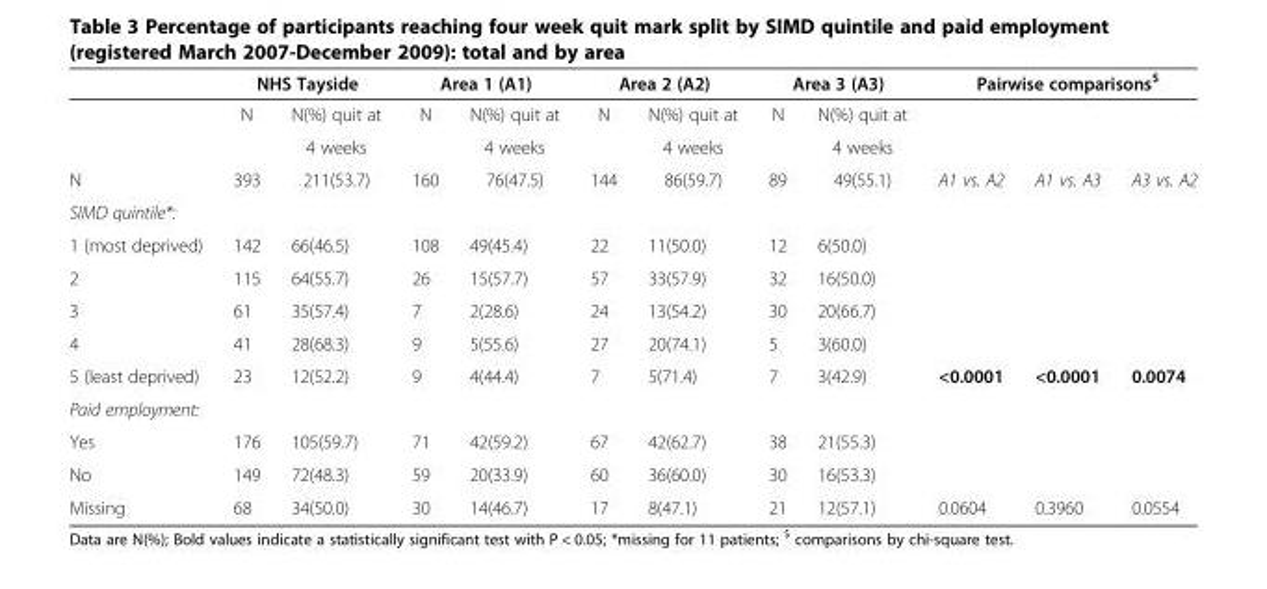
<table><thead><tr><td rowspan="4">N</td><td colspan="2">NHS Tayside</td><td colspan="2">Area 1 (A1)</td><td colspan="2">Area 2 (A2)</td><td colspan="2">Area 3 (A3)</td><td rowspan="3" colspan="3">Pairwise comparisons<sup>$</sup></td></tr><tr><td rowspan="3">N 393</td><td rowspan="3">N(%) quit at 4 weeks 211(53.7)</td><td rowspan="3">N 160</td><td rowspan="3">N(%) quit at 4 weeks 76(47.5)</td><td rowspan="3">N 144</td><td rowspan="3">N(%) quit at 4 weeks 86(59.7)</td><td rowspan="3">N 89</td><td rowspan="3">N(%) quit at 4 weeks 49(55.1)</td></tr><tr></tr><tr><td>A1 vs. A2</td><td>A1 vs. A3</td><td>A3 vs. A2</td></tr></thead><tbody><tr><td colspan="12">SIMD quintile*:</td></tr><tr><td>1 (most deprived)</td><td>142</td><td>66(46.5)</td><td>108</td><td>49(45.4)</td><td>22</td><td>11(50.0)</td><td>12</td><td>6(50.0)</td><td></td><td></td><td></td></tr><tr><td>2</td><td>115</td><td>64(55.7)</td><td>26</td><td>15(57.7)</td><td>57</td><td>33(57.9)</td><td>32</td><td>16(50.0)</td><td></td><td></td><td></td></tr><tr><td>3</td><td>61</td><td>35(57.4)</td><td>7</td><td>2(28.6)</td><td>24</td><td>13(54.2)</td><td>30</td><td>20(66.7)</td><td></td><td></td><td></td></tr><tr><td>4</td><td>41</td><td>28(68.3)</td><td>9</td><td>5(55.6)</td><td>27</td><td>20(74.1)</td><td>5</td><td>3(60.0)</td><td></td><td></td><td></td></tr><tr><td>5 (least deprived)</td><td>23</td><td>12(52.2)</td><td>9</td><td>4(44.4)</td><td>7</td><td>5(71.4)</td><td>7</td><td>3(42.9)</td><td>&lt;0.0001</td><td>&lt;0.0001</td><td>0.0074</td></tr><tr><td colspan="12">Paid employment:</td></tr><tr><td>Yes</td><td>176</td><td>105(59.7)</td><td>71</td><td>42(59.2)</td><td>67</td><td>42(62.7)</td><td>38</td><td>21(55.3)</td><td></td><td></td><td></td></tr><tr><td>No</td><td>149</td><td>72(48.3)</td><td>59</td><td>20(33.9)</td><td>60</td><td>36(60.0)</td><td>30</td><td>16(53.3)</td><td></td><td></td><td></td></tr><tr><td>Missing</td><td>68</td><td>34(50.0)</td><td>30</td><td>14(46.7)</td><td>17</td><td>8(47.1)</td><td>21</td><td>12(57.1)</td><td>0.0604</td><td>0.3960</td><td>0.0554</td></tr></tbody></table>